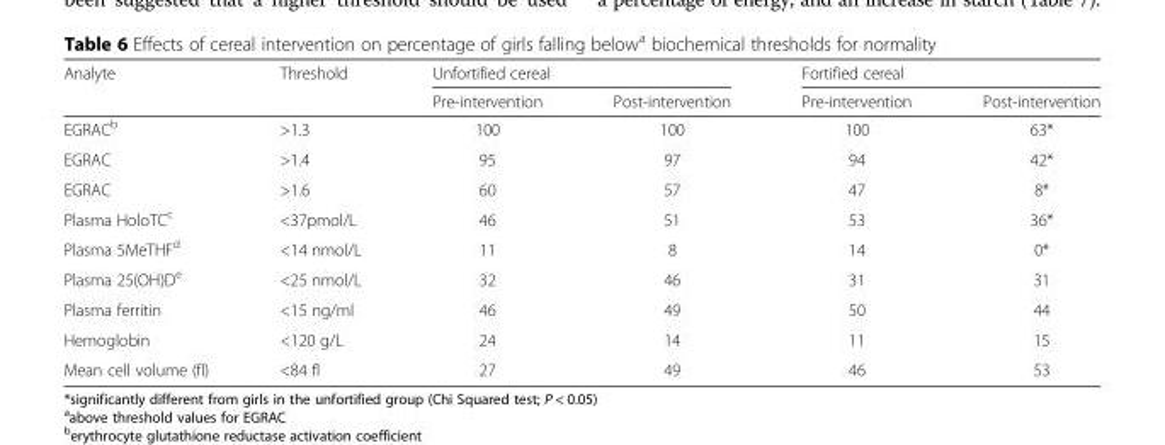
<table><thead><tr><td rowspan="2">Analyte</td><td rowspan="2">Threshold</td><td colspan="2">Unfortified cereal</td><td colspan="2">Fortified cereal</td></tr><tr><td>Pre-intervention</td><td>Post-intervention</td><td>Pre-intervention</td><td>Post-intervention</td></tr></thead><tbody><tr><td>EGRAC<sup>b</sup></td><td>&gt;1.3</td><td>100</td><td>100</td><td>100</td><td>63*</td></tr><tr><td>EGRAC</td><td>&gt;1.4</td><td>95</td><td>97</td><td>94</td><td>42*</td></tr><tr><td>EGRAC</td><td>&gt;1.6</td><td>60</td><td>57</td><td>47</td><td>8*</td></tr><tr><td>Plasma HoloTC<sup>c</sup></td><td>&lt;37pmol/L</td><td>46</td><td>51</td><td>53</td><td>36*</td></tr><tr><td>Plasma 5MeTHF<sup>d</sup></td><td>&lt;14 nmol/L</td><td>11</td><td>8</td><td>14</td><td>0*</td></tr><tr><td>Plasma 25(OH)D<sup>e</sup></td><td>&lt;25 nmol/L</td><td>32</td><td>46</td><td>31</td><td>31</td></tr><tr><td>Plasma ferritin</td><td>&lt;15 ng/ml</td><td>46</td><td>49</td><td>50</td><td>44</td></tr><tr><td>Hemoglobin</td><td>&lt;120 g/L</td><td>24</td><td>14</td><td>11</td><td>15</td></tr><tr><td>Mean cell volume (fl)</td><td>&lt;84 fl</td><td>27</td><td>49</td><td>46</td><td>53</td></tr></tbody></table>